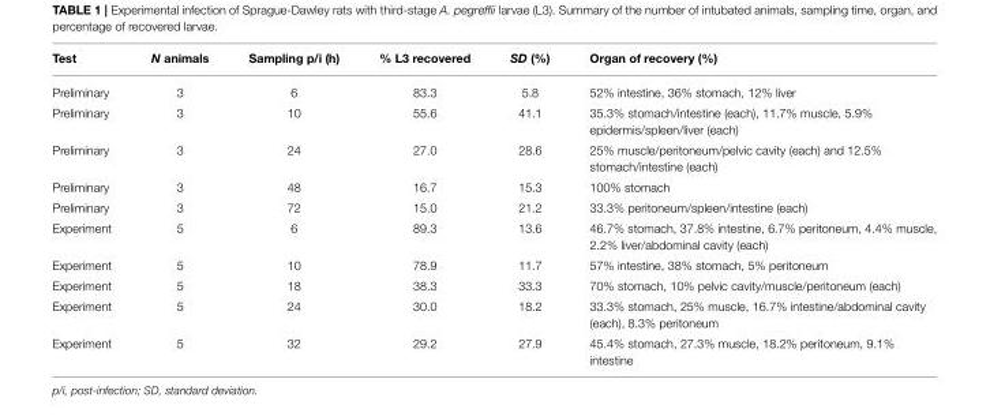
<table><thead><tr><td>Test</td><td>N animals</td><td>Sampling p/i (h)</td><td>% L3 recovered</td><td>SD (%)</td><td>Organ of recovery (%)</td></tr></thead><tbody><tr><td>Preliminary</td><td>3</td><td>6</td><td>83.3</td><td>5.8</td><td>52% intestine, 36% stomach, 12% liver</td></tr><tr><td>Preliminary</td><td>3</td><td>10</td><td>55.6</td><td>41.1</td><td>35.3% stomach/intestine (each), 11.7% muscle, 5.9% epidermis/spleen/liver (each)</td></tr><tr><td>Preliminary</td><td>3</td><td>24</td><td>27.0</td><td>28.6</td><td>25% muscle/peritoneum/pelvic cavity (each) and 12.5% stomach/intestine (each)</td></tr><tr><td>Preliminary</td><td>3</td><td>48</td><td>16.7</td><td>15.3</td><td>100% stomach</td></tr><tr><td>Preliminary</td><td>3</td><td>72</td><td>15.0</td><td>21.2</td><td>33.3% peritoneum/spleen/intestine (each)</td></tr><tr><td>Experiment</td><td>5</td><td>6</td><td>89.3</td><td>13.6</td><td>46.7% stomach, 37.8% intestine, 6.7% peritoneum, 4.4% muscle, 2.2% liver/abdominal cavity (each)</td></tr><tr><td>Experiment</td><td>5</td><td>10</td><td>78.9</td><td>11.7</td><td>57% intestine, 38% stomach, 5% peritoneum</td></tr><tr><td>Experiment</td><td>5</td><td>18</td><td>38.3</td><td>33.3</td><td>70% stomach, 10% pelvic cavity/muscle/peritoneum (each)</td></tr><tr><td>Experiment</td><td>5</td><td>24</td><td>30.0</td><td>18.2</td><td>33.3% stomach, 25% muscle, 16.7% intestine/abdominal cavity (each), 8.3% peritoneum</td></tr><tr><td>Experiment</td><td>5</td><td>32</td><td>29.2</td><td>27.9</td><td>45.4% stomach, 27.3% muscle, 18.2% peritoneum, 9.1% intestine</td></tr></tbody></table>